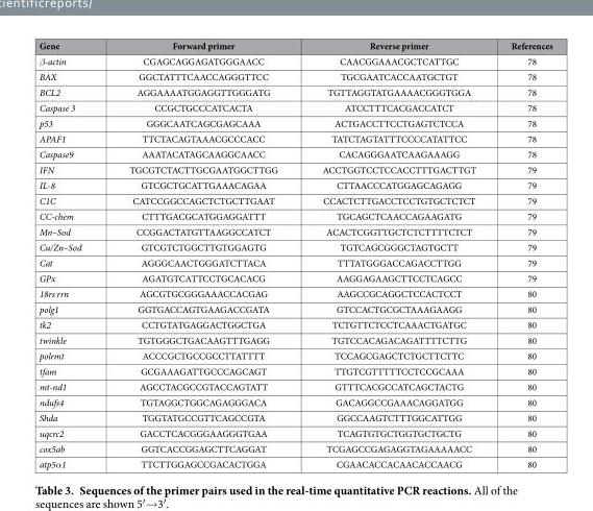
<table><thead><tr><td>Gene</td><td>Forward primer</td><td>Reverse primer</td><td>References</td></tr></thead><tbody><tr><td>β-actin</td><td>CGAGCAGGAGATGGGAACC</td><td>CAACGGAAACGCTCATTGC</td><td>78</td></tr><tr><td>BAX</td><td>GGCTATTTCAACCAGGGTTCC</td><td>TGCGAATCACCAATGCTGT</td><td>78</td></tr><tr><td>BCL2</td><td>AGGAAAATGGAGGTTGGGATG</td><td>TGTTAGGTATGAAAACGGGTGGA</td><td>78</td></tr><tr><td>Caspase 3</td><td>CCGCTGCCCATCACTA</td><td>ATCCTTTCACGACCATCT</td><td>78</td></tr><tr><td>p53</td><td>GGGCAATCAGCGAGCAAA</td><td>ACTGACCTTCCTGAGTCTCCA</td><td>78</td></tr><tr><td>APAF1</td><td>TTCTACAGTAAACGCCCACC</td><td>TATCTAGTATTTCCCCATATTCC</td><td>78</td></tr><tr><td>Caspase9</td><td>AAATACATAGCAAGGCAACC</td><td>CACAGGGAATCAAGAAAGG</td><td>78</td></tr><tr><td>IFN</td><td>TGCGTCTACTTGCGAATGGCTTGG</td><td>ACCTGGTCCTCCACCTTTGACTTGT</td><td>79</td></tr><tr><td>IL-8</td><td>GTCGCTGCATTGAAACAGAA</td><td>CTTAACCCATGGAGCAGAGG</td><td>79</td></tr><tr><td>C1C</td><td>CATCCGGCCAGCTCTGCTTGAAT</td><td>CCACTCTTGACCTCCTGTGCTCTCT</td><td>79</td></tr><tr><td>CC-chem</td><td>CTTTGACGCATGGAGGATTT</td><td>TGCAGCTCAACCAGAAGATG</td><td>79</td></tr><tr><td>Mn–Sod</td><td>CCGGACTATGTTAAGGCCATCT</td><td>ACACTCGGTTGCTCTCTTTTCTCT</td><td>79</td></tr><tr><td>Cu/Zn–Sod</td><td>GTCGTCTGGCTTGTGGAGTG</td><td>TGTCAGCGGGCTAGTGCTT</td><td>79</td></tr><tr><td>Cat</td><td>AGGGCAACTGGGATCTTACA</td><td>TTTATGGGACCAGACCTTGG</td><td>79</td></tr><tr><td>GPx</td><td>AGATGTCATTCCTGCACACG</td><td>AAGGAGAAGCTTCCTCAGCC</td><td>79</td></tr><tr><td>18rs rrn</td><td>AGCGTGCGGGAAACCACGAG</td><td>AAGCCGCAGGCTCCACTCCT</td><td>80</td></tr><tr><td>polg1</td><td>GGTGACCAGTGAAGACCGATA</td><td>GTCCACTGCGCTAAAGAAGG</td><td>80</td></tr><tr><td>tk2</td><td>CCTGTATGAGGACTGGCTGA</td><td>TCTGTTCTCCTCAAACTGATGC</td><td>80</td></tr><tr><td>twinkle</td><td>TGTGGGCTGACAAGTTTGAGG</td><td>TGTCCACAGACAGATTTTCTTG</td><td>80</td></tr><tr><td>polrmt</td><td>ACCCGCTGCCGCCTTATTTT</td><td>TCCAGCGAGCTCTGCTTCTTC</td><td>80</td></tr><tr><td>tfam</td><td>GCGAAAGATTGCCCAGCAGT</td><td>TTGTCGTTTTTCCTCCGCAAA</td><td>80</td></tr><tr><td>mt-nd1</td><td>AGCCTACGCCGTACCAGTATT</td><td>GTTTCACGCCATCAGCTACTG</td><td>80</td></tr><tr><td>ndufs4</td><td>TGTAGGCTGGCAGAGGGACA</td><td>GACAGGCCGAAACAGGATGG</td><td>80</td></tr><tr><td>Shda</td><td>TGGTATGCCGTTCAGCCGTA</td><td>GGCCAAGTCTTTGGCATTGG</td><td>80</td></tr><tr><td>uqcrc2</td><td>GACCTCACGGGAAGGGTGAA</td><td>TCAGTGTGCTGGTGCTGCTG</td><td>80</td></tr><tr><td>cox5ab</td><td>GGTCACCGGAGCTTCAGGAT</td><td>TCGAGCCGAGAGGTAGAAAAACC</td><td>80</td></tr><tr><td>atp5α1</td><td>TTCTTGGAGCCGACACTGGA</td><td>CGAACACCACAACACCAACG</td><td>80</td></tr></tbody></table>